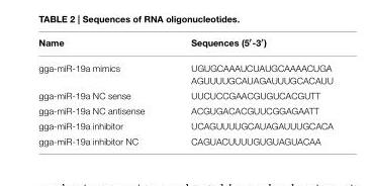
<table><thead><tr><td>Name</td><td>Sequences (5′-3′)</td></tr></thead><tbody><tr><td>gga-miR-19a mimics</td><td>UGUGCAAAUCUAUGCAAAACUGA AGUUUUGCAUAGAUUUGCACAUU</td></tr><tr><td>gga-miR-19a NC sense</td><td>UUCUCCGAACGUGUCACGUTT</td></tr><tr><td>gga-miR-19a NC antisense</td><td>ACGUGACACGUUCGGAGAATT</td></tr><tr><td>gga-miR-19a inhibitor</td><td>UCAGUUUUGCAUAGAUUUGCACA</td></tr><tr><td>gga-miR-19a inhibitor NC</td><td>CAGUACUUUUGUGUAGUACAA</td></tr></tbody></table>